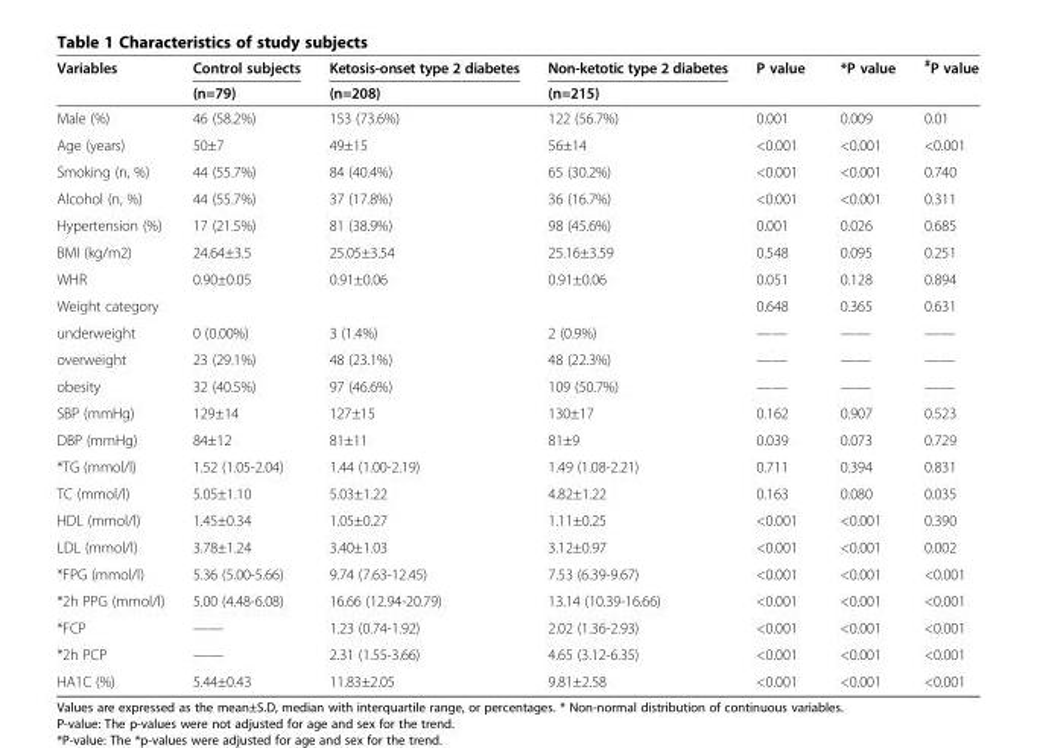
<table><thead><tr><td rowspan="2">Variables</td><td rowspan="2">Control subjects (n=79)</td><td rowspan="2">Ketosis-onset type 2 diabetes (n=208)</td><td rowspan="2">Non-ketotic type 2 diabetes (n=215)</td><td rowspan="2">P value</td><td rowspan="2">*P value</td><td rowspan="2"><sup>#</sup>P value</td></tr><tr></tr></thead><tbody><tr><td>Male (%)</td><td>46 (58.2%)</td><td>153 (73.6%)</td><td>122 (56.7%)</td><td>0.001</td><td>0.009</td><td>0.01</td></tr><tr><td>Age (years)</td><td>50±7</td><td>49±15</td><td>56±14</td><td>&lt;0.001</td><td>&lt;0.001</td><td>&lt;0.001</td></tr><tr><td>Smoking (n, %)</td><td>44 (55.7%)</td><td>84 (40.4%)</td><td>65 (30.2%)</td><td>&lt;0.001</td><td>&lt;0.001</td><td>0.740</td></tr><tr><td>Alcohol (n, %)</td><td>44 (55.7%)</td><td>37 (17.8%)</td><td>36 (16.7%)</td><td>&lt;0.001</td><td>&lt;0.001</td><td>0.311</td></tr><tr><td>Hypertension (%)</td><td>17 (21.5%)</td><td>81 (38.9%)</td><td>98 (45.6%)</td><td>0.001</td><td>0.026</td><td>0.685</td></tr><tr><td>BMI (kg/m2)</td><td>24.64±3.5</td><td>25.05±3.54</td><td>25.16±3.59</td><td>0.548</td><td>0.095</td><td>0.251</td></tr><tr><td>WHR</td><td>0.90±0.05</td><td>0.91±0.06</td><td>0.91±0.06</td><td>0.051</td><td>0.128</td><td>0.894</td></tr><tr><td>Weight category</td><td></td><td></td><td></td><td>0.648</td><td>0.365</td><td>0.631</td></tr><tr><td>underweight</td><td>0 (0.00%)</td><td>3 (1.4%)</td><td>2 (0.9%)</td><td>——</td><td>——</td><td>——</td></tr><tr><td>overweight</td><td>23 (29.1%)</td><td>48 (23.1%)</td><td>48 (22.3%)</td><td>——</td><td>——</td><td>——</td></tr><tr><td>obesity</td><td>32 (40.5%)</td><td>97 (46.6%)</td><td>109 (50.7%)</td><td>——</td><td>——</td><td>——</td></tr><tr><td>SBP (mmHg)</td><td>129±14</td><td>127±15</td><td>130±17</td><td>0.162</td><td>0.907</td><td>0.523</td></tr><tr><td>DBP (mmHg)</td><td>84±12</td><td>81±11</td><td>81±9</td><td>0.039</td><td>0.073</td><td>0.729</td></tr><tr><td>*TG (mmol/l)</td><td>1.52 (1.05-2.04)</td><td>1.44 (1.00-2.19)</td><td>1.49 (1.08-2.21)</td><td>0.711</td><td>0.394</td><td>0.831</td></tr><tr><td>TC (mmol/l)</td><td>5.05±1.10</td><td>5.03±1.22</td><td>4.82±1.22</td><td>0.163</td><td>0.080</td><td>0.035</td></tr><tr><td>HDL (mmol/l)</td><td>1.45±0.34</td><td>1.05±0.27</td><td>1.11±0.25</td><td>&lt;0.001</td><td>&lt;0.001</td><td>0.390</td></tr><tr><td>LDL (mmol/l)</td><td>3.78±1.24</td><td>3.40±1.03</td><td>3.12±0.97</td><td>&lt;0.001</td><td>&lt;0.001</td><td>0.002</td></tr><tr><td>*FPG (mmol/l)</td><td>5.36 (5.00-5.66)</td><td>9.74 (7.63-12.45)</td><td>7.53 (6.39-9.67)</td><td>&lt;0.001</td><td>&lt;0.001</td><td>&lt;0.001</td></tr><tr><td>*2h PPG (mmol/l)</td><td>5.00 (4.48-6.08)</td><td>16.66 (12.94-20.79)</td><td>13.14 (10.39-16.66)</td><td>&lt;0.001</td><td>&lt;0.001</td><td>&lt;0.001</td></tr><tr><td>*FCP</td><td>——</td><td>1.23 (0.74-1.92)</td><td>2.02 (1.36-2.93)</td><td>&lt;0.001</td><td>&lt;0.001</td><td>&lt;0.001</td></tr><tr><td>*2h PCP</td><td>——</td><td>2.31 (1.55-3.66)</td><td>4.65 (3.12-6.35)</td><td>&lt;0.001</td><td>&lt;0.001</td><td>&lt;0.001</td></tr><tr><td>HA1C (%)</td><td>5.44±0.43</td><td>11.83±2.05</td><td>9.81±2.58</td><td>&lt;0.001</td><td>&lt;0.001</td><td>&lt;0.001</td></tr></tbody></table>